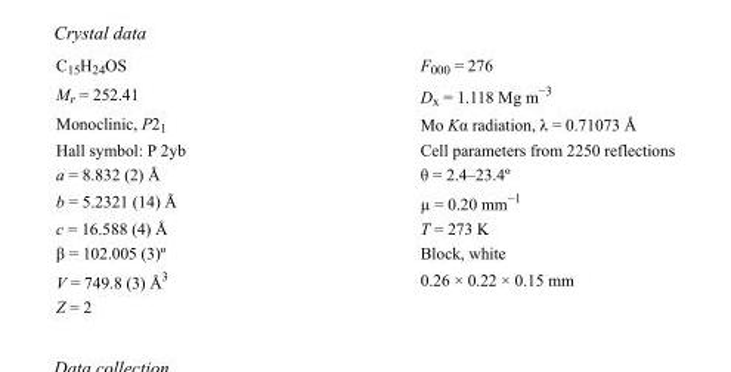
<table><tbody><tr><td>C<sub>15</sub>H<sub>24</sub>OS</td><td>F000 = 276</td></tr><tr><td>M<sub>r</sub> = 252.41</td><td>D<sub>x</sub> = 1.118 Mg m<sup>−3</sup></td></tr><tr><td>Monoclinic, P2<sub>1</sub></td><td>Mo Kα radiation, λ = 0.71073 Å</td></tr><tr><td>Hall symbol: P 2yb</td><td>Cell parameters from 2250 reflections</td></tr><tr><td>a = 8.832 (2) Å</td><td>θ = 2.4–23.4º</td></tr><tr><td>b = 5.2321 (14) Å</td><td>µ = 0.20 mm<sup>−1</sup></td></tr><tr><td>c = 16.588 (4) Å</td><td>T = 273 K</td></tr><tr><td>β = 102.005 (3)º</td><td>Block, white</td></tr><tr><td>V = 749.8 (3) Å<sup>3</sup></td><td>0.26 × 0.22 × 0.15 mm</td></tr><tr><td>Z = 2</td><td></td></tr></tbody></table>